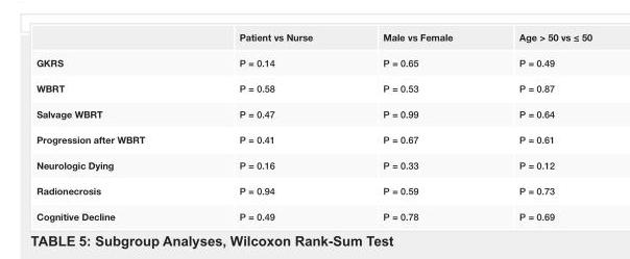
<table><thead><tr><td></td><td>Patient vs Nurse</td><td>Male vs Female</td><td>Age &gt; 50 vs ≤ 50</td></tr></thead><tbody><tr><td>GKRS</td><td>P = 0.14</td><td>P = 0.65</td><td>P = 0.49</td></tr><tr><td>WBRT</td><td>P = 0.58</td><td>P = 0.53</td><td>P = 0.87</td></tr><tr><td>Salvage WBRT</td><td>P = 0.47</td><td>P = 0.99</td><td>P = 0.64</td></tr><tr><td>Progression after WBRT</td><td>P = 0.41</td><td>P = 0.67</td><td>P = 0.61</td></tr><tr><td>Neurologic Dying</td><td>P = 0.16</td><td>P = 0.33</td><td>P = 0.12</td></tr><tr><td>Radionecrosis</td><td>P = 0.94</td><td>P = 0.59</td><td>P = 0.73</td></tr><tr><td>Cognitive Decline</td><td>P = 0.49</td><td>P = 0.78</td><td>P = 0.69</td></tr></tbody></table>